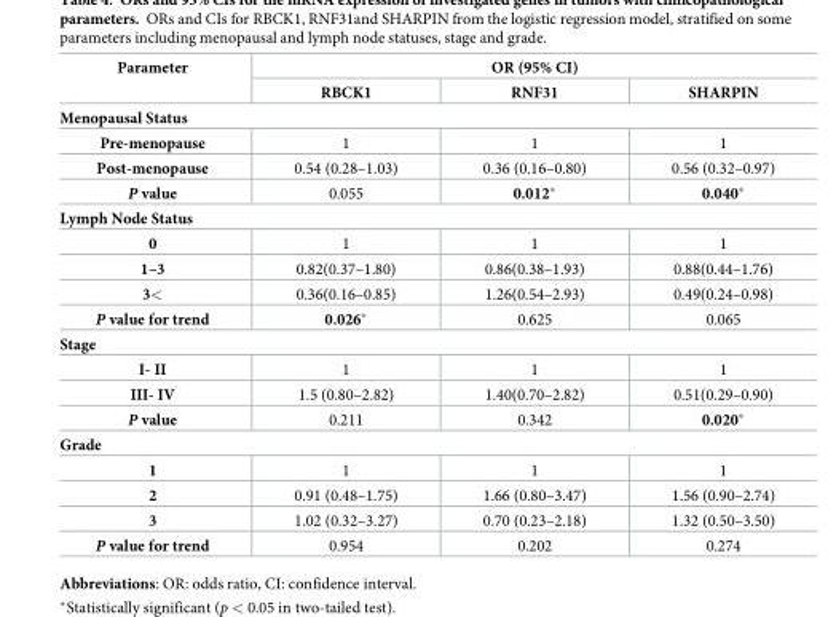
<table><thead><tr><td rowspan="2">Parameter</td><td colspan="3">OR (95% CI)</td></tr><tr><td>RBCK1</td><td>RNF31</td><td>SHARPIN</td></tr></thead><tbody><tr><td colspan="4">Menopausal Status</td></tr><tr><td>Pre-menopause</td><td>1</td><td>1</td><td>1</td></tr><tr><td>Post-menopause</td><td>0.54 (0.28–1.03)</td><td>0.36 (0.16–0.80)</td><td>0.56 (0.32–0.97)</td></tr><tr><td>P value</td><td>0.055</td><td>0.012*</td><td>0.040*</td></tr><tr><td colspan="4">Lymph Node Status</td></tr><tr><td>0</td><td>1</td><td>1</td><td>1</td></tr><tr><td>1–3</td><td>0.82(0.37–1.80)</td><td>0.86(0.38–1.93)</td><td>0.88(0.44–1.76)</td></tr><tr><td>3&lt;</td><td>0.36(0.16–0.85)</td><td>1.26(0.54–2.93)</td><td>0.49(0.24–0.98)</td></tr><tr><td>P value for trend</td><td>0.026*</td><td>0.625</td><td>0.065</td></tr><tr><td colspan="4">Stage</td></tr><tr><td>I- II</td><td>1</td><td>1</td><td>1</td></tr><tr><td>III- IV</td><td>1.5 (0.80–2.82)</td><td>1.40(0.70–2.82)</td><td>0.51(0.29–0.90)</td></tr><tr><td>P value</td><td>0.211</td><td>0.342</td><td>0.020*</td></tr><tr><td colspan="4">Grade</td></tr><tr><td>1</td><td>1</td><td>1</td><td>1</td></tr><tr><td>2</td><td>0.91 (0.48–1.75)</td><td>1.66 (0.80–3.47)</td><td>1.56 (0.90–2.74)</td></tr><tr><td>3</td><td>1.02 (0.32–3.27)</td><td>0.70 (0.23–2.18)</td><td>1.32 (0.50–3.50)</td></tr><tr><td>P value for trend</td><td>0.954</td><td>0.202</td><td>0.274</td></tr></tbody></table>